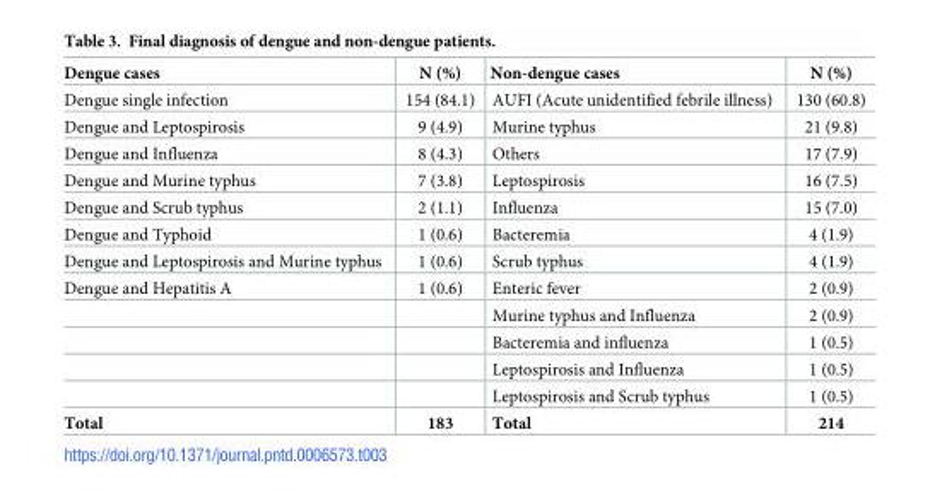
<table><thead><tr><td>Dengue cases</td><td>N (%)</td><td>Non-dengue cases</td><td>N (%)</td></tr></thead><tbody><tr><td>Dengue single infection</td><td>154 (84.1)</td><td>AUFI (Acute unidentified febrile illness)</td><td>130 (60.8)</td></tr><tr><td>Dengue and Leptospirosis</td><td>9 (4.9)</td><td>Murine typhus</td><td>21 (9.8)</td></tr><tr><td>Dengue and Influenza</td><td>8 (4.3)</td><td>Others</td><td>17 (7.9)</td></tr><tr><td>Dengue and Murine typhus</td><td>7 (3.8)</td><td>Leptospirosis</td><td>16 (7.5)</td></tr><tr><td>Dengue and Scrub typhus</td><td>2 (1.1)</td><td>Influenza</td><td>15 (7.0)</td></tr><tr><td>Dengue and Typhoid</td><td>1 (0.6)</td><td>Bacteremia</td><td>4 (1.9)</td></tr><tr><td>Dengue and Leptospirosis and Murine typhus</td><td>1 (0.6)</td><td>Scrub typhus</td><td>4 (1.9)</td></tr><tr><td rowspan="5">Dengue and Hepatitis A</td><td>1 (0.6)</td><td>Enteric fever</td><td>2 (0.9)</td></tr><tr><td></td><td>Murine typhus and Influenza</td><td>2 (0.9)</td></tr><tr><td></td><td>Bacteremia and influenza</td><td>1 (0.5)</td></tr><tr><td></td><td>Leptospirosis and Influenza</td><td>1 (0.5)</td></tr><tr><td></td><td>Leptospirosis and Scrub typhus</td><td>1 (0.5)</td></tr><tr><td>Total</td><td>183</td><td>Total</td><td>214</td></tr></tbody></table>